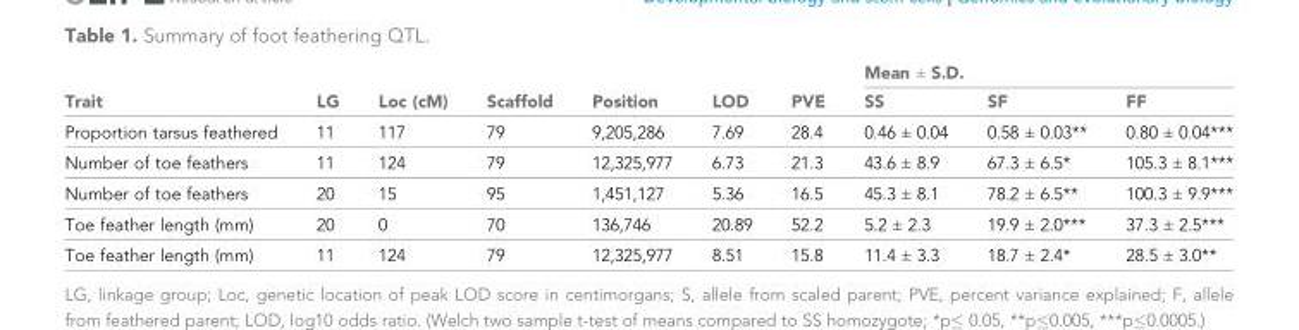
<table><thead><tr><td rowspan="2">Trait</td><td rowspan="2">LG</td><td rowspan="2">Loc (cM)</td><td rowspan="2">Scaffold</td><td rowspan="2">Position</td><td rowspan="2">LOD</td><td rowspan="2">PVE</td><td colspan="3">Mean ± S.D.</td></tr><tr><td>SS</td><td>SF</td><td>FF</td></tr></thead><tbody><tr><td>Proportion tarsus feathered</td><td>11</td><td>117</td><td>79</td><td>9,205,286</td><td>7.69</td><td>28.4</td><td>0.46 ± 0.04</td><td>0.58 ± 0.03**</td><td>0.80 ± 0.04***</td></tr><tr><td>Number of toe feathers</td><td>11</td><td>124</td><td>79</td><td>12,325,977</td><td>6.73</td><td>21.3</td><td>43.6 ± 8.9</td><td>67.3 ± 6.5*</td><td>105.3 ± 8.1***</td></tr><tr><td>Number of toe feathers</td><td>20</td><td>15</td><td>95</td><td>1,451,127</td><td>5.36</td><td>16.5</td><td>45.3 ± 8.1</td><td>78.2 ± 6.5**</td><td>100.3 ± 9.9***</td></tr><tr><td>Toe feather length (mm)</td><td>20</td><td>0</td><td>70</td><td>136,746</td><td>20.89</td><td>52.2</td><td>5.2 ± 2.3</td><td>19.9 ± 2.0***</td><td>37.3 ± 2.5***</td></tr><tr><td>Toe feather length (mm)</td><td>11</td><td>124</td><td>79</td><td>12,325,977</td><td>8.51</td><td>15.8</td><td>11.4 ± 3.3</td><td>18.7 ± 2.4*</td><td>28.5 ± 3.0**</td></tr></tbody></table>